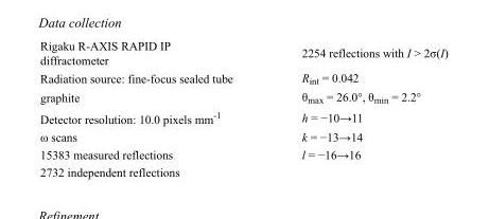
<table><tbody><tr><td>Rigaku R-AXIS RAPID IP diffractometer</td><td>2254 reflections with I &gt; 2σ(I)</td></tr><tr><td>Radiation source: fine-focus sealed tube</td><td>R<sub>int</sub> = 0.042</td></tr><tr><td>graphite</td><td>θ<sub>max</sub> = 26.0°, θ<sub>min</sub> = 2.2°</td></tr><tr><td>Detector resolution: 10.0 pixels mm<sup>-1</sup></td><td>h = −10→11</td></tr><tr><td>ω scans</td><td>k = −13→14</td></tr><tr><td>15383 measured reflections</td><td>l = −16→16</td></tr><tr><td>2732 independent reflections</td><td></td></tr></tbody></table>